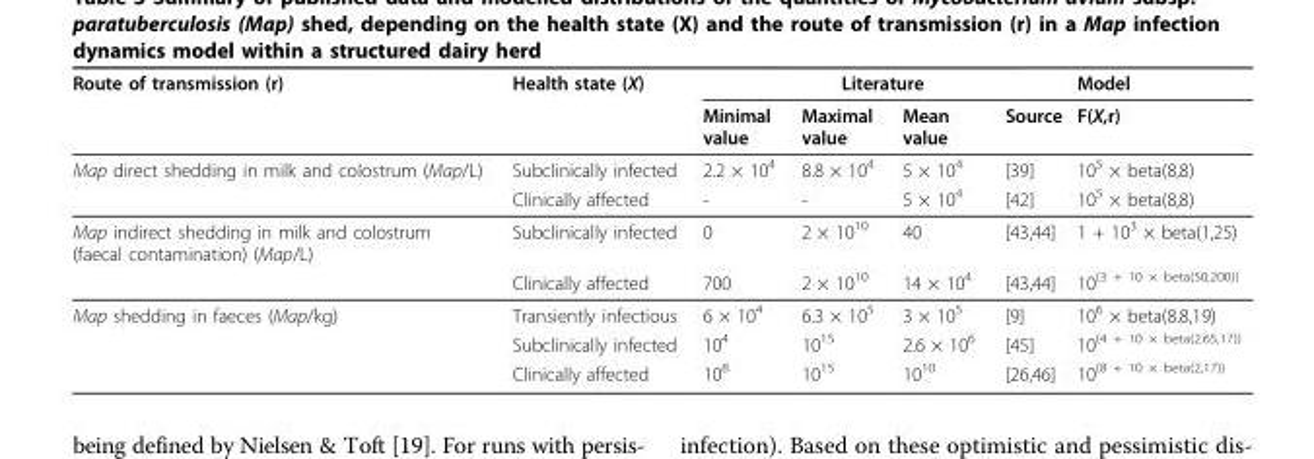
<table><thead><tr><td rowspan="2">Route of transmission (r)</td><td rowspan="2">Health state (X)</td><td colspan="4">Literature</td><td rowspan="2">Model F(X,r)</td></tr><tr><td>Minimal value</td><td>Maximal value</td><td>Mean value</td><td>Source</td></tr></thead><tbody><tr><td rowspan="2">Map direct shedding in milk and colostrum (Map/L)</td><td>Subclinically infected</td><td>2.2 × 10<sup>4</sup></td><td>8.8 × 10<sup>4</sup></td><td>5 × 10<sup>4</sup></td><td>[39]</td><td>10<sup>5</sup> × beta(8,8)</td></tr><tr><td>Clinically affected</td><td>-</td><td>-</td><td>5 × 10<sup>4</sup></td><td>[42]</td><td>10<sup>5</sup> × beta(8,8)</td></tr><tr><td rowspan="2">Map indirect shedding in milk and colostrum (faecal contamination) (Map/L)</td><td>Subclinically infected</td><td>0</td><td>2 × 10<sup>10</sup></td><td>40</td><td>[43,44]</td><td>1 + 10<sup>3</sup> × beta(1,25)</td></tr><tr><td>Clinically affected</td><td>700</td><td>2 × 10<sup>10</sup></td><td>14 × 10<sup>4</sup></td><td>[43,44]</td><td>10<sup>(3 + 10 × beta(50,200))</sup></td></tr><tr><td rowspan="3">Map shedding in faeces (Map/kg)</td><td>Transiently infectious</td><td>6 × 10<sup>4</sup></td><td>6.3 × 10<sup>5</sup></td><td>3 × 10<sup>5</sup></td><td>[9]</td><td>10<sup>6</sup> × beta(8.8,19)</td></tr><tr><td>Subclinically infected</td><td>10<sup>4</sup></td><td>10<sup>15</sup></td><td>2.6 × 10<sup>6</sup></td><td>[45]</td><td>10<sup>(4 + 10 × beta(2.65,17))</sup></td></tr><tr><td>Clinically affected</td><td>10<sup>8</sup></td><td>10<sup>15</sup></td><td>10<sup>10</sup></td><td>[26,46]</td><td>10<sup>(8 + 10 × beta(2,17))</sup></td></tr></tbody></table>